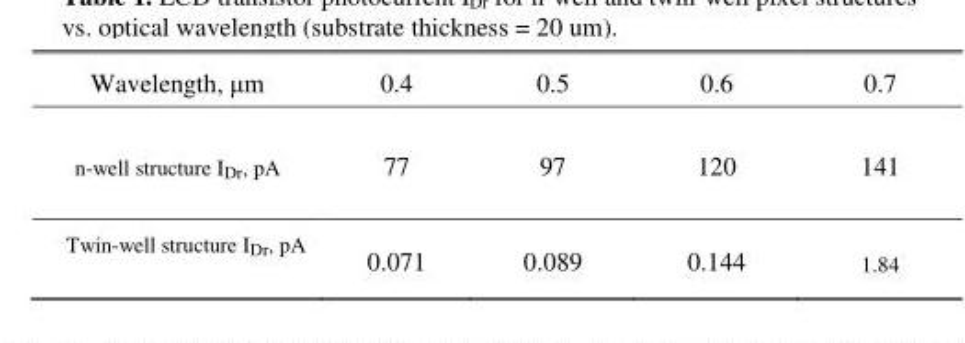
<table><thead><tr><td>Wavelength, µm</td><td>0.4</td><td>0.5</td><td>0.6</td><td>0.7</td></tr></thead><tbody><tr><td>n-well structure I<sub>Dr</sub>, pA</td><td>77</td><td>97</td><td>120</td><td>141</td></tr><tr><td>Twin-well structure I<sub>Dr</sub>, pA</td><td>0.071</td><td>0.089</td><td>0.144</td><td>1.84</td></tr></tbody></table>